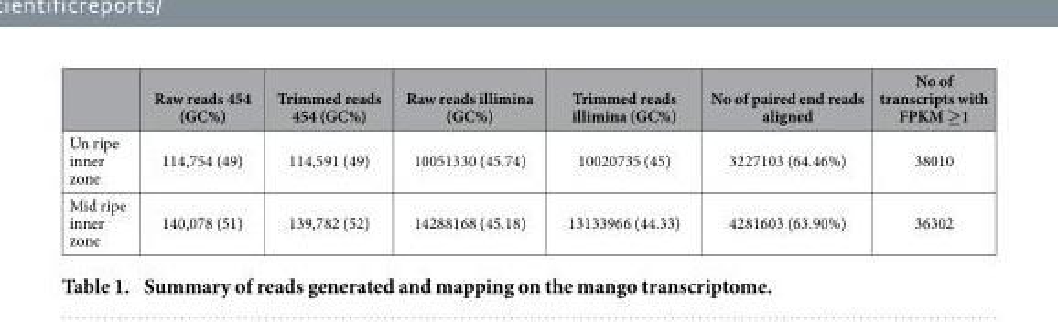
<table><thead><tr><td></td><td>Raw reads 454 (GC%)</td><td>Trimmed reads 454 (GC%)</td><td>Raw reads illimina (GC%)</td><td>Trimmed reads illimina (GC%)</td><td>No of paired end reads aligned</td><td>No of transcripts with FPKM ≥1</td></tr></thead><tbody><tr><td>Un ripe inner zone</td><td>114,754 (49)</td><td>114,591 (49)</td><td>10051330 (45.74)</td><td>10020735 (45)</td><td>3227103 (64.46%)</td><td>38010</td></tr><tr><td>Mid ripe inner zone</td><td>140,078 (51)</td><td>139,782 (52)</td><td>14288168 (45.18)</td><td>13133966 (44.33)</td><td>4281603 (63.90%)</td><td>36302</td></tr></tbody></table>